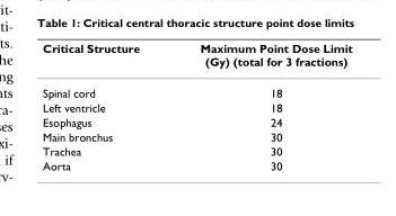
<table><thead><tr><td>Critical Structure</td><td>Maximum Point Dose Limit (Gy) (total for 3 fractions)</td></tr></thead><tbody><tr><td>Spinal cord</td><td>18</td></tr><tr><td>Left ventricle</td><td>18</td></tr><tr><td>Esophagus</td><td>24</td></tr><tr><td>Main bronchus</td><td>30</td></tr><tr><td>Trachea</td><td>30</td></tr><tr><td>Aorta</td><td>30</td></tr></tbody></table>